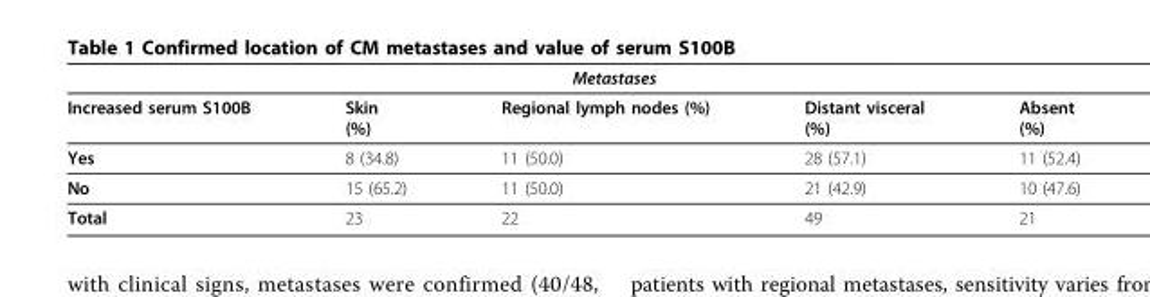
<table><thead><tr><td colspan="5">Metastases</td></tr><tr><td>Increased serum S100B</td><td>Skin (%)</td><td>Regional lymph nodes (%)</td><td>Distant visceral (%)</td><td>Absent (%)</td></tr></thead><tbody><tr><td>Yes</td><td>8 (34.8)</td><td>11 (50.0)</td><td>28 (57.1)</td><td>11 (52.4)</td></tr><tr><td>No</td><td>15 (65.2)</td><td>11 (50.0)</td><td>21 (42.9)</td><td>10 (47.6)</td></tr><tr><td>Total</td><td>23</td><td>22</td><td>49</td><td>21</td></tr></tbody></table>